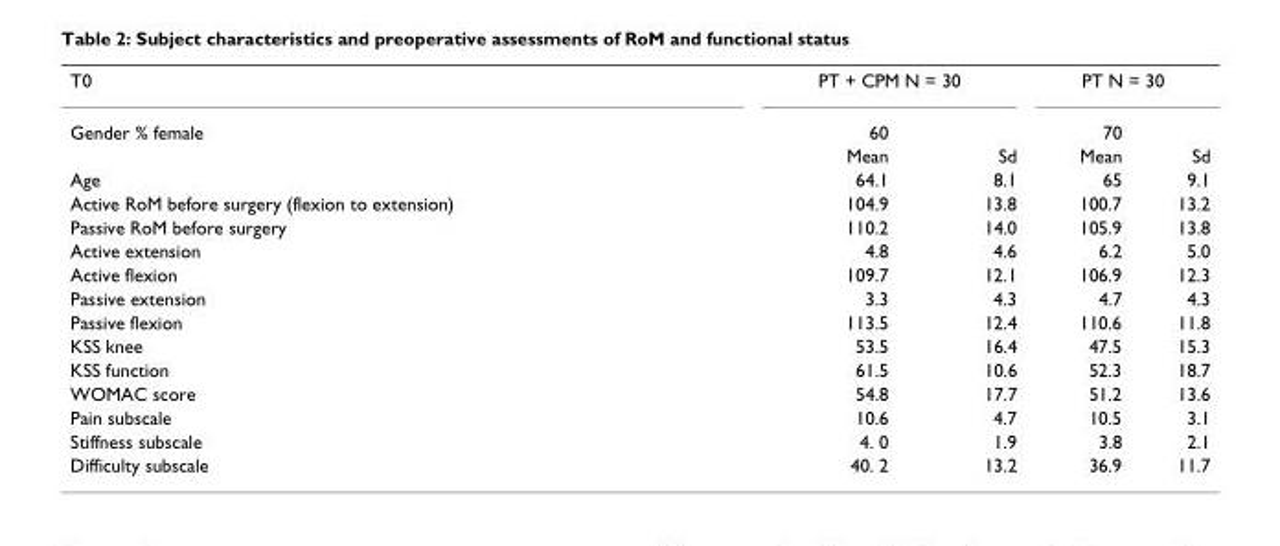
<table><tbody><tr><td>T0</td><td colspan="2">PT + CPM N = 30</td><td colspan="2">PT N = 30</td></tr><tr><td rowspan="2">Gender % female</td><td>60</td><td></td><td>70</td><td></td></tr><tr><td>Mean</td><td>Sd</td><td>Mean</td><td>Sd</td></tr><tr><td>Age</td><td>64.1</td><td>8.1</td><td>65</td><td>9.1</td></tr><tr><td>Active RoM before surgery (flexion to extension)</td><td>104.9</td><td>13.8</td><td>100.7</td><td>13.2</td></tr><tr><td>Passive RoM before surgery</td><td>110.2</td><td>14.0</td><td>105.9</td><td>13.8</td></tr><tr><td>Active extension</td><td>4.8</td><td>4.6</td><td>6.2</td><td>5.0</td></tr><tr><td>Active flexion</td><td>109.7</td><td>12.1</td><td>106.9</td><td>12.3</td></tr><tr><td>Passive extension</td><td>3.3</td><td>4.3</td><td>4.7</td><td>4.3</td></tr><tr><td>Passive flexion</td><td>113.5</td><td>12.4</td><td>110.6</td><td>11.8</td></tr><tr><td>KSS knee</td><td>53.5</td><td>16.4</td><td>47.5</td><td>15.3</td></tr><tr><td>KSS function</td><td>61.5</td><td>10.6</td><td>52.3</td><td>18.7</td></tr><tr><td>WOMAC score</td><td>54.8</td><td>17.7</td><td>51.2</td><td>13.6</td></tr><tr><td>Pain subscale</td><td>10.6</td><td>4.7</td><td>10.5</td><td>3.1</td></tr><tr><td>Stiffness subscale</td><td>4. 0</td><td>1.9</td><td>3.8</td><td>2.1</td></tr><tr><td>Difficulty subscale</td><td>40. 2</td><td>13.2</td><td>36.9</td><td>11.7</td></tr></tbody></table>